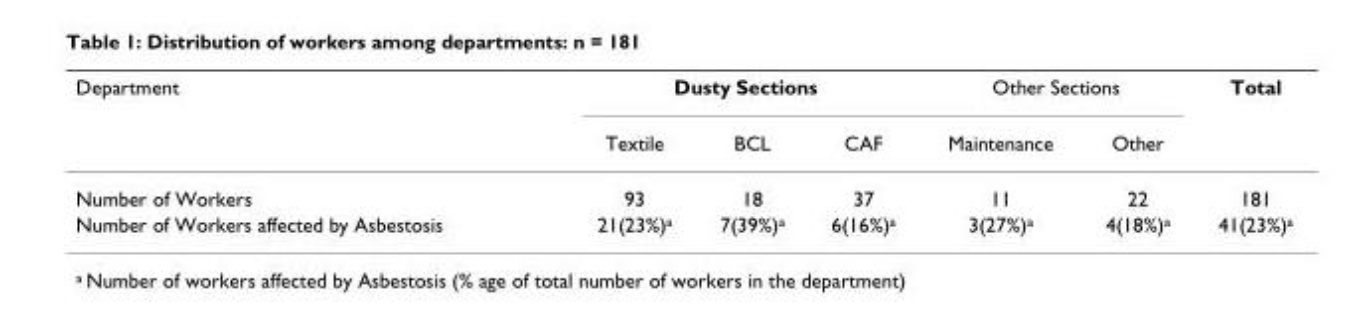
<table><thead><tr><td rowspan="2">Department</td><td colspan="3">Dusty Sections</td><td colspan="2">Other Sections</td><td rowspan="2">Total</td></tr><tr><td>Textile</td><td>BCL</td><td>CAF</td><td>Maintenance</td><td>Other</td></tr></thead><tbody><tr><td>Number of Workers</td><td>93</td><td>18</td><td>37</td><td>11</td><td>22</td><td>181</td></tr><tr><td>Number of Workers affected by Asbestosis</td><td>21(23%)<sup>a</sup></td><td>7(39%)<sup>a</sup></td><td>6(16%)<sup>a</sup></td><td>3(27%)<sup>a</sup></td><td>4(18%)<sup>a</sup></td><td>41(23%)<sup>a</sup></td></tr></tbody></table>